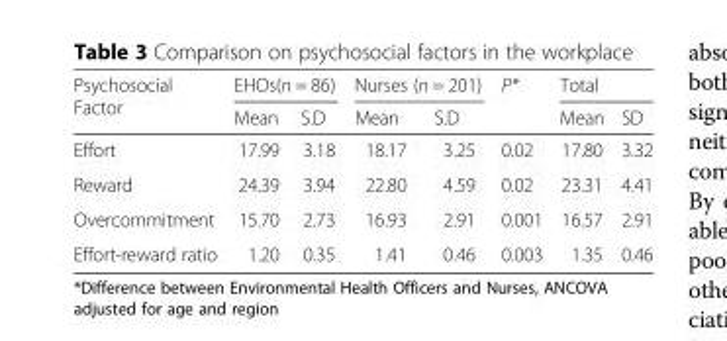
<table><thead><tr><td rowspan="2">Psychosocial Factor</td><td colspan="2">EHOs(n = 86)</td><td colspan="2">Nurses (n = 201)</td><td rowspan="2">P*</td><td colspan="2">Total</td></tr><tr><td>Mean</td><td>S.D</td><td>Mean</td><td>S.D</td><td>Mean</td><td>SD</td></tr></thead><tbody><tr><td>Effort</td><td>17.99</td><td>3.18</td><td>18.17</td><td>3.25</td><td>0.02</td><td>17.80</td><td>3.32</td></tr><tr><td>Reward</td><td>24.39</td><td>3.94</td><td>22.80</td><td>4.59</td><td>0.02</td><td>23.31</td><td>4.41</td></tr><tr><td>Overcommitment</td><td>15.70</td><td>2.73</td><td>16.93</td><td>2.91</td><td>0.001</td><td>16.57</td><td>2.91</td></tr><tr><td>Effort-reward ratio</td><td>1.20</td><td>0.35</td><td>1.41</td><td>0.46</td><td>0.003</td><td>1.35</td><td>0.46</td></tr></tbody></table>